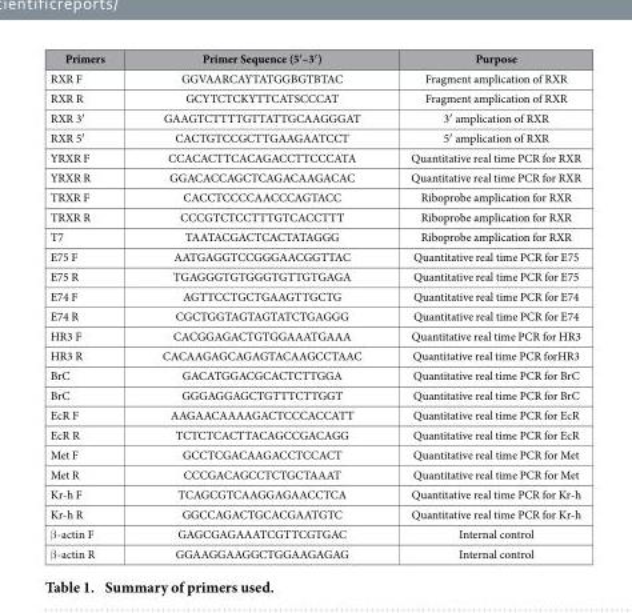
<table><thead><tr><td>Primers</td><td>Primer Sequence (5′–3′ )</td><td>Purpose</td></tr></thead><tbody><tr><td>RXR F</td><td>GGVAARCAYTATGGBGTBTAC</td><td>Fragment amplication of RXR</td></tr><tr><td>RXR R</td><td>GCYTCTCKYTTCATSCCCAT</td><td>Fragment amplication of RXR</td></tr><tr><td>RXR 3′</td><td>GAAGTCTTTTGTTATTGCAAGGGAT</td><td>3′ amplication of RXR</td></tr><tr><td>RXR 5′</td><td>CACTGTCCGCTTGAAGAATCCT</td><td>5′ amplication of RXR</td></tr><tr><td>YRXR F</td><td>CCACACTTCACAGACCTTCCCATA</td><td>Quantitative real time PCR for RXR</td></tr><tr><td>YRXR R</td><td>GGACACCAGCTCAGACAAGACAC</td><td>Quantitative real time PCR for RXR</td></tr><tr><td>TRXR F</td><td>CACCTCCCCAACCCAGTACC</td><td>Riboprobe amplication for RXR</td></tr><tr><td>TRXR R</td><td>CCCGTCTCCTTTGTCACCTTT</td><td>Riboprobe amplication for RXR</td></tr><tr><td>T7</td><td>TAATACGACTCACTATAGGG</td><td>Riboprobe amplication for RXR</td></tr><tr><td>E75 F</td><td>AATGAGGTCCGGGAACGGTTAC</td><td>Quantitative real time PCR for E75</td></tr><tr><td>E75 R</td><td>TGAGGGTGTGGGTGTTGTGAGA</td><td>Quantitative real time PCR for E75</td></tr><tr><td>E74 F</td><td>AGTTCCTGCTGAAGTTGCTG</td><td>Quantitative real time PCR for E74</td></tr><tr><td>E74 R</td><td>CGCTGGTAGTAGTATCTGAGGG</td><td>Quantitative real time PCR for E74</td></tr><tr><td>HR3 F</td><td>CACGGAGACTGTGGAAATGAAA</td><td>Quantitative real time PCR for HR3</td></tr><tr><td>HR3 R</td><td>CACAAGAGCAGAGTACAAGCCTAAC</td><td>Quantitative real time PCR forHR3</td></tr><tr><td>BrC</td><td>GACATGGACGCACTCTTGGA</td><td>Quantitative real time PCR for BrC</td></tr><tr><td>BrC</td><td>GGGAGGAGCTGTTTCTTGGT</td><td>Quantitative real time PCR for BrC</td></tr><tr><td>EcR F</td><td>AAGAACAAAAGACTCCCACCATT</td><td>Quantitative real time PCR for EcR</td></tr><tr><td>EcR R</td><td>TCTCTCACTTACAGCCGACAGG</td><td>Quantitative real time PCR for EcR</td></tr><tr><td>Met F</td><td>GCCTCGACAAGACCTCCACT</td><td>Quantitative real time PCR for Met</td></tr><tr><td>Met R</td><td>CCCGACAGCCTCTGCTAAAT</td><td>Quantitative real time PCR for Met</td></tr><tr><td>Kr-h F</td><td>TCAGCGTCAAGGAGAACCTCA</td><td>Quantitative real time PCR for Kr-h</td></tr><tr><td>Kr-h R</td><td>GGCCAGACTGCACGAATGTC</td><td>Quantitative real time PCR for Kr-h</td></tr><tr><td>β -actin F</td><td>GAGCGAGAAATCGTTCGTGAC</td><td>Internal control</td></tr><tr><td>β -actin R</td><td>GGAAGGAAGGCTGGAAGAGAG</td><td>Internal control</td></tr></tbody></table>